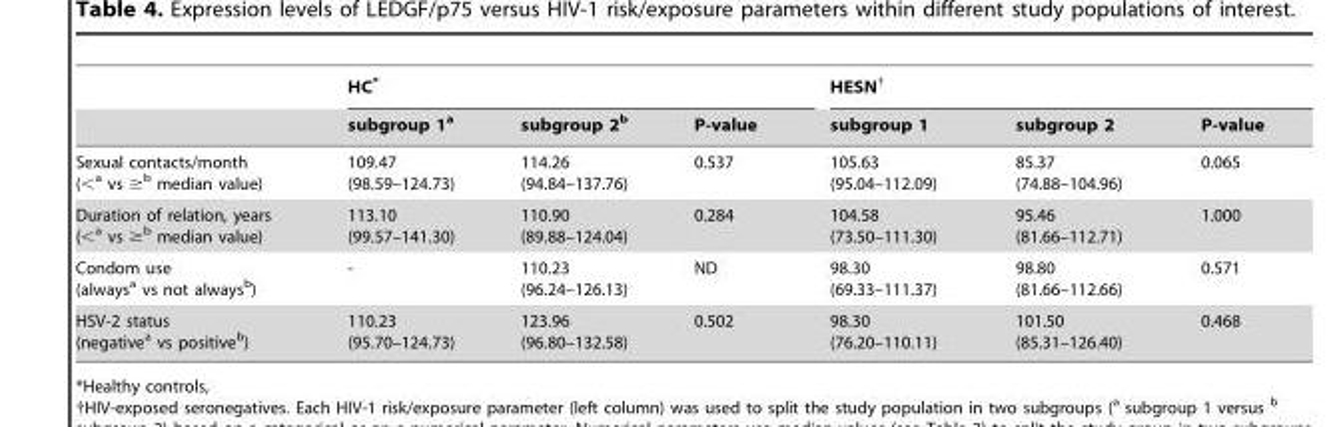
<table><thead><tr><td rowspan="2"></td><td colspan="3">HC*</td><td colspan="3">HESN†</td></tr><tr><td>subgroup 1<sup>a</sup></td><td>subgroup 2<sup>b</sup></td><td>P-value</td><td>subgroup 1</td><td>subgroup 2</td><td>P-value</td></tr></thead><tbody><tr><td>Sexual contacts/month (&lt;<sup>a</sup> vs ≥<sup>b</sup> median value)</td><td>109.47 (98.59–124.73)</td><td>114.26 (94.84–137.76)</td><td>0.537</td><td>105.63 (95.04–112.09)</td><td>85.37 (74.88–104.96)</td><td>0.065</td></tr><tr><td>Duration of relation, years (&lt;<sup>a</sup> vs ≥<sup>b</sup> median value)</td><td>113.10 (99.57–141.30)</td><td>110.90 (89.88–124.04)</td><td>0.284</td><td>104.58 (73.50–111.30)</td><td>95.46 (81.66–112.71)</td><td>1.000</td></tr><tr><td>Condom use (always<sup>a</sup> vs not always<sup>b</sup>)</td><td>-</td><td>110.23 (96.24–126.13)</td><td>ND</td><td>98.30 (69.33–111.37)</td><td>98.80 (81.66–112.66)</td><td>0.571</td></tr><tr><td>HSV-2 status (negative<sup>a</sup> vs positive<sup>b</sup>)</td><td>110.23 (95.70–124.73)</td><td>123.96 (96.80–132.58)</td><td>0.502</td><td>98.30 (76.20–110.11)</td><td>101.50 (85.31–126.40)</td><td>0.468</td></tr></tbody></table>